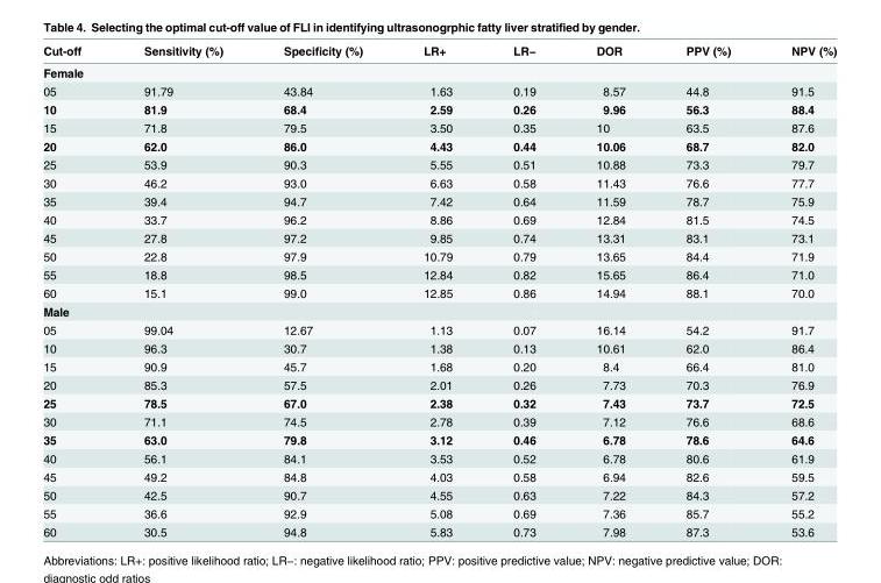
<table><thead><tr><td>Cut-off</td><td>Sensitivity (%)</td><td>Specificity (%)</td><td>LR+</td><td>LR−</td><td>DOR</td><td>PPV (%)</td><td>NPV (%)</td></tr></thead><tbody><tr><td colspan="8">Female</td></tr><tr><td>05</td><td>91.79</td><td>43.84</td><td>1.63</td><td>0.19</td><td>8.57</td><td>44.8</td><td>91.5</td></tr><tr><td>10</td><td>81.9</td><td>68.4</td><td>2.59</td><td>0.26</td><td>9.96</td><td>56.3</td><td>88.4</td></tr><tr><td>15</td><td>71.8</td><td>79.5</td><td>3.50</td><td>0.35</td><td>10</td><td>63.5</td><td>87.6</td></tr><tr><td>20</td><td>62.0</td><td>86.0</td><td>4.43</td><td>0.44</td><td>10.06</td><td>68.7</td><td>82.0</td></tr><tr><td>25</td><td>53.9</td><td>90.3</td><td>5.55</td><td>0.51</td><td>10.88</td><td>73.3</td><td>79.7</td></tr><tr><td>30</td><td>46.2</td><td>93.0</td><td>6.63</td><td>0.58</td><td>11.43</td><td>76.6</td><td>77.7</td></tr><tr><td>35</td><td>39.4</td><td>94.7</td><td>7.42</td><td>0.64</td><td>11.59</td><td>78.7</td><td>75.9</td></tr><tr><td>40</td><td>33.7</td><td>96.2</td><td>8.86</td><td>0.69</td><td>12.84</td><td>81.5</td><td>74.5</td></tr><tr><td>45</td><td>27.8</td><td>97.2</td><td>9.85</td><td>0.74</td><td>13.31</td><td>83.1</td><td>73.1</td></tr><tr><td>50</td><td>22.8</td><td>97.9</td><td>10.79</td><td>0.79</td><td>13.65</td><td>84.4</td><td>71.9</td></tr><tr><td>55</td><td>18.8</td><td>98.5</td><td>12.84</td><td>0.82</td><td>15.65</td><td>86.4</td><td>71.0</td></tr><tr><td>60</td><td>15.1</td><td>99.0</td><td>12.85</td><td>0.86</td><td>14.94</td><td>88.1</td><td>70.0</td></tr><tr><td colspan="8">Male</td></tr><tr><td>05</td><td>99.04</td><td>12.67</td><td>1.13</td><td>0.07</td><td>16.14</td><td>54.2</td><td>91.7</td></tr><tr><td>10</td><td>96.3</td><td>30.7</td><td>1.38</td><td>0.13</td><td>10.61</td><td>62.0</td><td>86.4</td></tr><tr><td>15</td><td>90.9</td><td>45.7</td><td>1.68</td><td>0.20</td><td>8.4</td><td>66.4</td><td>81.0</td></tr><tr><td>20</td><td>85.3</td><td>57.5</td><td>2.01</td><td>0.26</td><td>7.73</td><td>70.3</td><td>76.9</td></tr><tr><td>25</td><td>78.5</td><td>67.0</td><td>2.38</td><td>0.32</td><td>7.43</td><td>73.7</td><td>72.5</td></tr><tr><td>30</td><td>71.1</td><td>74.5</td><td>2.78</td><td>0.39</td><td>7.12</td><td>76.6</td><td>68.6</td></tr><tr><td>35</td><td>63.0</td><td>79.8</td><td>3.12</td><td>0.46</td><td>6.78</td><td>78.6</td><td>64.6</td></tr><tr><td>40</td><td>56.1</td><td>84.1</td><td>3.53</td><td>0.52</td><td>6.78</td><td>80.6</td><td>61.9</td></tr><tr><td>45</td><td>49.2</td><td>84.8</td><td>4.03</td><td>0.58</td><td>6.94</td><td>82.6</td><td>59.5</td></tr><tr><td>50</td><td>42.5</td><td>90.7</td><td>4.55</td><td>0.63</td><td>7.22</td><td>84.3</td><td>57.2</td></tr><tr><td>55</td><td>36.6</td><td>92.9</td><td>5.08</td><td>0.69</td><td>7.36</td><td>85.7</td><td>55.2</td></tr><tr><td>60</td><td>30.5</td><td>94.8</td><td>5.83</td><td>0.73</td><td>7.98</td><td>87.3</td><td>53.6</td></tr></tbody></table>